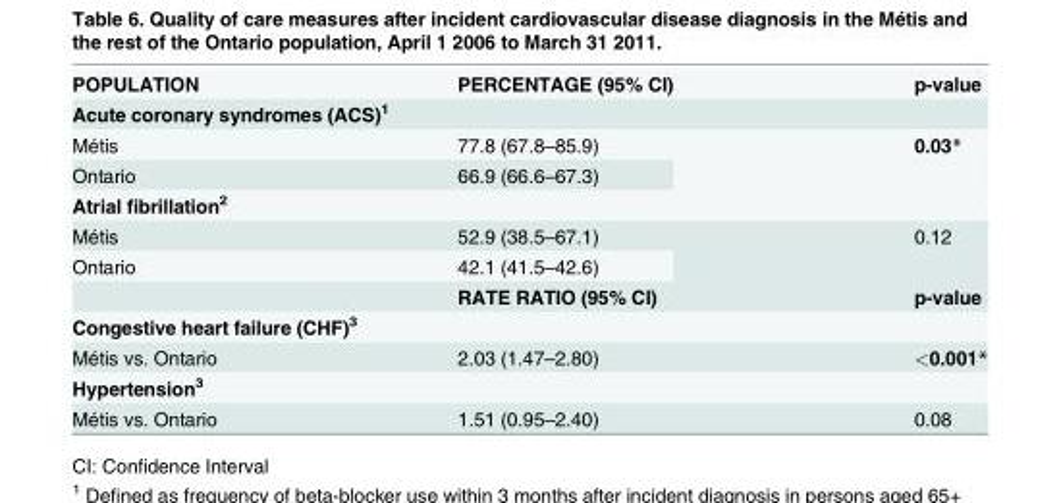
<table><tbody><tr><td>POPULATION</td><td>PERCENTAGE (95% CI)</td><td>p-value</td></tr><tr><td colspan="3">Acute coronary syndromes (ACS)<sup>1</sup></td></tr><tr><td>Métis</td><td>77.8 (67.8–85.9)</td><td rowspan="2">0.03*</td></tr><tr><td>Ontario</td><td>66.9 (66.6–67.3)</td></tr><tr><td colspan="3">Atrial fibrillation<sup>2</sup></td></tr><tr><td>Métis</td><td>52.9 (38.5–67.1)</td><td rowspan="2">0.12</td></tr><tr><td rowspan="2">Ontario</td><td>42.1 (41.5–42.6)</td></tr><tr><td>RATE RATIO (95% CI)</td><td>p-value</td></tr><tr><td colspan="3">Congestive heart failure (CHF)<sup>3</sup></td></tr><tr><td>Métis vs. Ontario</td><td>2.03 (1.47–2.80)</td><td>&lt;0.001*</td></tr><tr><td colspan="3">Hypertension<sup>3</sup></td></tr><tr><td>Métis vs. Ontario</td><td>1.51 (0.95–2.40)</td><td>0.08</td></tr></tbody></table>